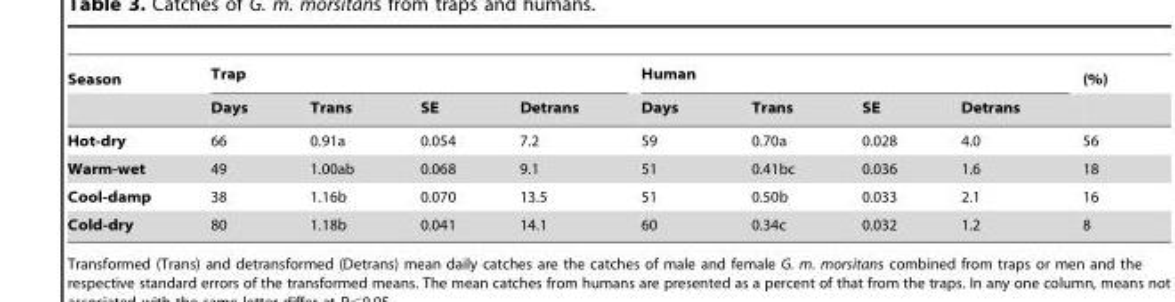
<table><thead><tr><td rowspan="2">Season</td><td colspan="4">Trap</td><td colspan="4">Human</td><td rowspan="2">(%)</td></tr><tr><td>Days</td><td>Trans</td><td>SE</td><td>Detrans</td><td>Days</td><td>Trans</td><td>SE</td><td>Detrans</td></tr></thead><tbody><tr><td>Hot-dry</td><td>66</td><td>0.91a</td><td>0.054</td><td>7.2</td><td>59</td><td>0.70a</td><td>0.028</td><td>4.0</td><td>56</td></tr><tr><td>Warm-wet</td><td>49</td><td>1.00ab</td><td>0.068</td><td>9.1</td><td>51</td><td>0.41bc</td><td>0.036</td><td>1.6</td><td>18</td></tr><tr><td>Cool-damp</td><td>38</td><td>1.16b</td><td>0.070</td><td>13.5</td><td>51</td><td>0.50b</td><td>0.033</td><td>2.1</td><td>16</td></tr><tr><td>Cold-dry</td><td>80</td><td>1.18b</td><td>0.041</td><td>14.1</td><td>60</td><td>0.34c</td><td>0.032</td><td>1.2</td><td>8</td></tr></tbody></table>